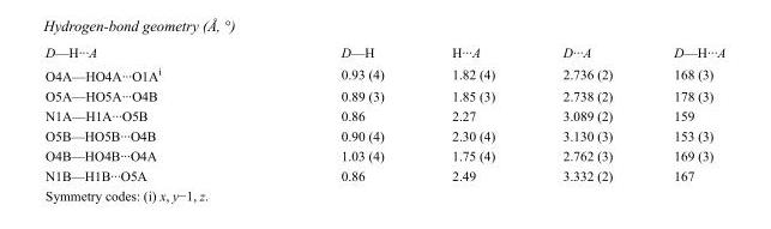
<table><tbody><tr><td>D—H···A</td><td>D—H</td><td>H···A</td><td>D···A</td><td>D—H···A</td></tr><tr><td>O4A—HO4A···O1A<sup>i</sup></td><td>0.93 (4)</td><td>1.82 (4)</td><td>2.736 (2)</td><td>168 (3)</td></tr><tr><td>O5A—HO5A···O4B</td><td>0.89 (3)</td><td>1.85 (3)</td><td>2.738 (2)</td><td>178 (3)</td></tr><tr><td>N1A—H1A···O5B</td><td>0.86</td><td>2.27</td><td>3.089 (2)</td><td>159</td></tr><tr><td>O5B—HO5B···O4B</td><td>0.90 (4)</td><td>2.30 (4)</td><td>3.130 (3)</td><td>153 (3)</td></tr><tr><td>O4B—HO4B···O4A</td><td>1.03 (4)</td><td>1.75 (4)</td><td>2.762 (3)</td><td>169 (3)</td></tr><tr><td>N1B—H1B···O5A</td><td>0.86</td><td>2.49</td><td>3.332 (2)</td><td>167</td></tr></tbody></table>